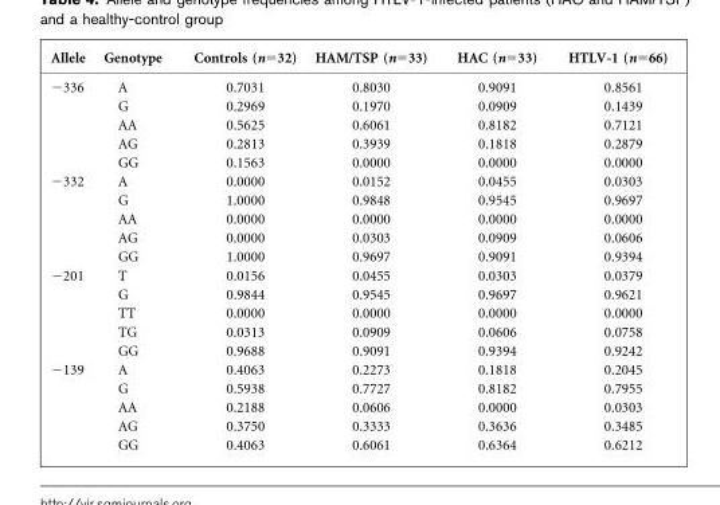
<table><thead><tr><td>Allele</td><td>Genotype</td><td>Controls (n=32)</td><td>HAM/TSP (n=33)</td><td>HAC (n=33)</td><td>HTLV-1 (n=66)</td></tr></thead><tbody><tr><td rowspan="5">−336</td><td>A</td><td>0.7031</td><td>0.8030</td><td>0.9091</td><td>0.8561</td></tr><tr><td>G</td><td>0.2969</td><td>0.1970</td><td>0.0909</td><td>0.1439</td></tr><tr><td>AA</td><td>0.5625</td><td>0.6061</td><td>0.8182</td><td>0.7121</td></tr><tr><td>AG</td><td>0.2813</td><td>0.3939</td><td>0.1818</td><td>0.2879</td></tr><tr><td>GG</td><td>0.1563</td><td>0.0000</td><td>0.0000</td><td>0.0000</td></tr><tr><td rowspan="5">−332</td><td>A</td><td>0.0000</td><td>0.0152</td><td>0.0455</td><td>0.0303</td></tr><tr><td>G</td><td>1.0000</td><td>0.9848</td><td>0.9545</td><td>0.9697</td></tr><tr><td>AA</td><td>0.0000</td><td>0.0000</td><td>0.0000</td><td>0.0000</td></tr><tr><td>AG</td><td>0.0000</td><td>0.0303</td><td>0.0909</td><td>0.0606</td></tr><tr><td>GG</td><td>1.0000</td><td>0.9697</td><td>0.9091</td><td>0.9394</td></tr><tr><td rowspan="5">−201</td><td>T</td><td>0.0156</td><td>0.0455</td><td>0.0303</td><td>0.0379</td></tr><tr><td>G</td><td>0.9844</td><td>0.9545</td><td>0.9697</td><td>0.9621</td></tr><tr><td>TT</td><td>0.0000</td><td>0.0000</td><td>0.0000</td><td>0.0000</td></tr><tr><td>TG</td><td>0.0313</td><td>0.0909</td><td>0.0606</td><td>0.0758</td></tr><tr><td>GG</td><td>0.9688</td><td>0.9091</td><td>0.9394</td><td>0.9242</td></tr><tr><td rowspan="5">−139</td><td>A</td><td>0.4063</td><td>0.2273</td><td>0.1818</td><td>0.2045</td></tr><tr><td>G</td><td>0.5938</td><td>0.7727</td><td>0.8182</td><td>0.7955</td></tr><tr><td>AA</td><td>0.2188</td><td>0.0606</td><td>0.0000</td><td>0.0303</td></tr><tr><td>AG</td><td>0.3750</td><td>0.3333</td><td>0.3636</td><td>0.3485</td></tr><tr><td>GG</td><td>0.4063</td><td>0.6061</td><td>0.6364</td><td>0.6212</td></tr></tbody></table>